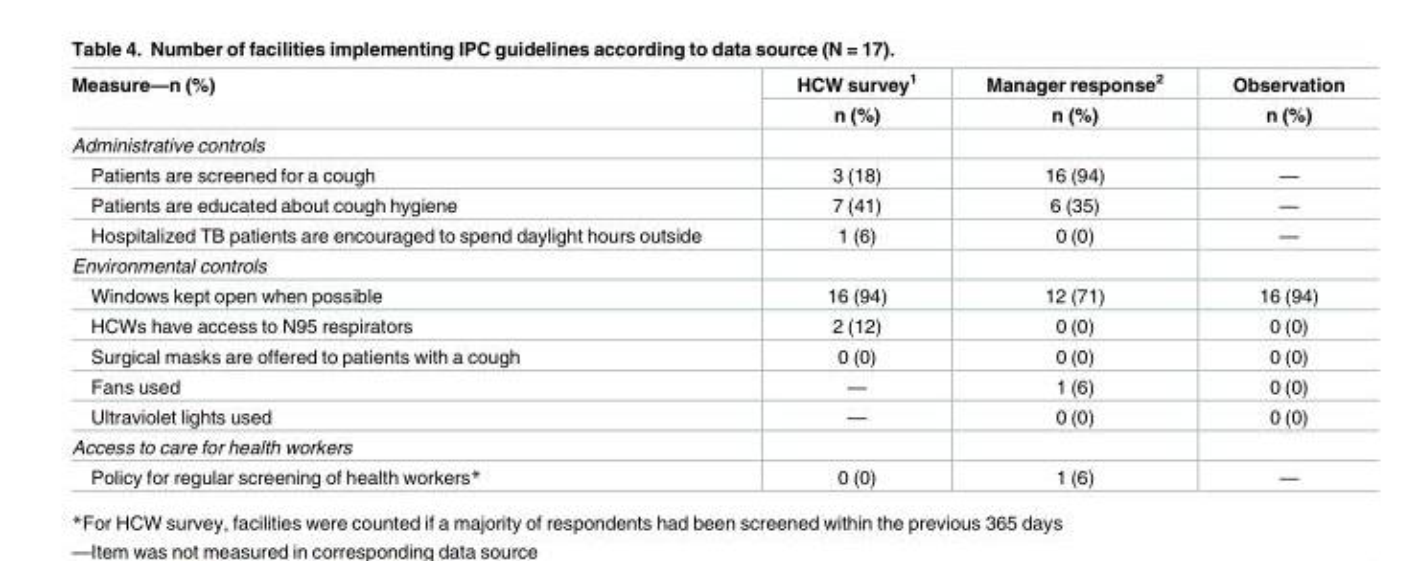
<table><thead><tr><td rowspan="2">Measure—n (%)</td><td rowspan="2">HCW survey<sup>1</sup> n (%)</td><td rowspan="2">Manager response<sup>2</sup> n (%)</td><td rowspan="2">Observation n (%)</td></tr><tr></tr></thead><tbody><tr><td colspan="4">Administrative controls</td></tr><tr><td>Patients are screened for a cough</td><td>3 (18)</td><td>16 (94)</td><td>—</td></tr><tr><td>Patients are educated about cough hygiene</td><td>7 (41)</td><td>6 (35)</td><td>—</td></tr><tr><td>Hospitalized TB patients are encouraged to spend daylight hours outside</td><td>1 (6)</td><td>0 (0)</td><td>—</td></tr><tr><td colspan="4">Environmental controls</td></tr><tr><td>Windows kept open when possible</td><td>16 (94)</td><td>12 (71)</td><td>16 (94)</td></tr><tr><td>HCWs have access to N95 respirators</td><td>2 (12)</td><td>0 (0)</td><td>0 (0)</td></tr><tr><td>Surgical masks are offered to patients with a cough</td><td>0 (0)</td><td>0 (0)</td><td>0 (0)</td></tr><tr><td>Fans used</td><td>—</td><td>1 (6)</td><td>0 (0)</td></tr><tr><td>Ultraviolet lights used</td><td>—</td><td>0 (0)</td><td>0 (0)</td></tr><tr><td colspan="4">Access to care for health workers</td></tr><tr><td>Policy for regular screening of health workers*</td><td>0 (0)</td><td>1 (6)</td><td>—</td></tr></tbody></table>